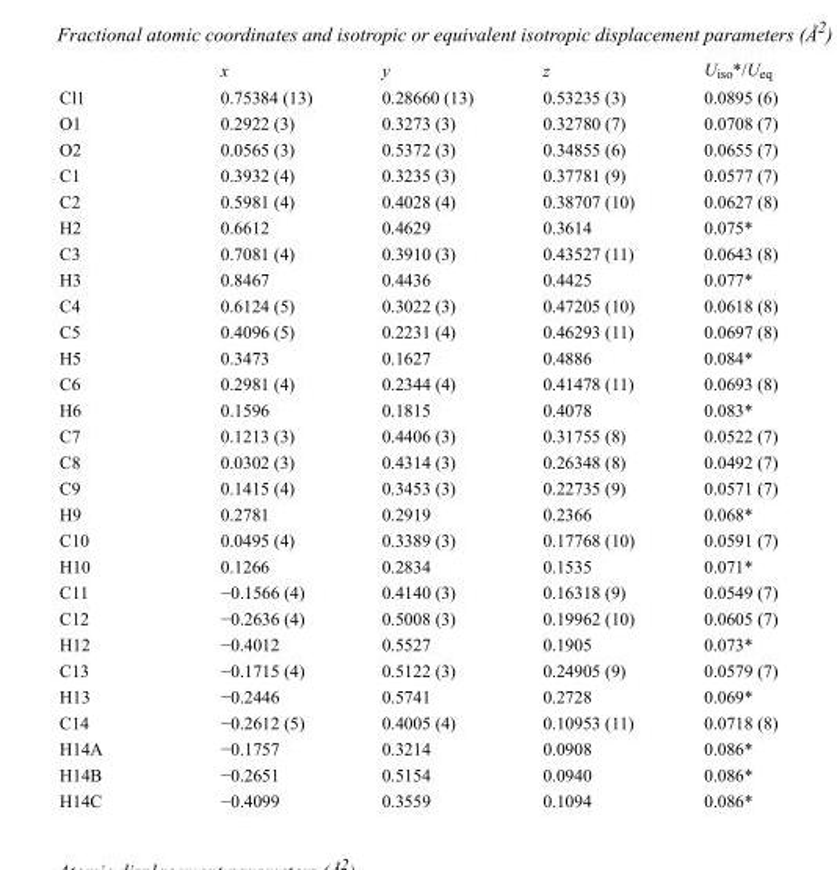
<table><thead><tr><td></td><td>x</td><td>y</td><td>z</td><td>U<sub>iso</sub>*/U<sub>eq</sub></td></tr></thead><tbody><tr><td>Cl1</td><td>0.75384 (13)</td><td>0.28660 (13)</td><td>0.53235 (3)</td><td>0.0895 (6)</td></tr><tr><td>O1</td><td>0.2922 (3)</td><td>0.3273 (3)</td><td>0.32780 (7)</td><td>0.0708 (7)</td></tr><tr><td>O2</td><td>0.0565 (3)</td><td>0.5372 (3)</td><td>0.34855 (6)</td><td>0.0655 (7)</td></tr><tr><td>C1</td><td>0.3932 (4)</td><td>0.3235 (3)</td><td>0.37781 (9)</td><td>0.0577 (7)</td></tr><tr><td>C2</td><td>0.5981 (4)</td><td>0.4028 (4)</td><td>0.38707 (10)</td><td>0.0627 (8)</td></tr><tr><td>H2</td><td>0.6612</td><td>0.4629</td><td>0.3614</td><td>0.075*</td></tr><tr><td>C3</td><td>0.7081 (4)</td><td>0.3910 (3)</td><td>0.43527 (11)</td><td>0.0643 (8)</td></tr><tr><td>H3</td><td>0.8467</td><td>0.4436</td><td>0.4425</td><td>0.077*</td></tr><tr><td>C4</td><td>0.6124 (5)</td><td>0.3022 (3)</td><td>0.47205 (10)</td><td>0.0618 (8)</td></tr><tr><td>C5</td><td>0.4096 (5)</td><td>0.2231 (4)</td><td>0.46293 (11)</td><td>0.0697 (8)</td></tr><tr><td>H5</td><td>0.3473</td><td>0.1627</td><td>0.4886</td><td>0.084*</td></tr><tr><td>C6</td><td>0.2981 (4)</td><td>0.2344 (4)</td><td>0.41478 (11)</td><td>0.0693 (8)</td></tr><tr><td>H6</td><td>0.1596</td><td>0.1815</td><td>0.4078</td><td>0.083*</td></tr><tr><td>C7</td><td>0.1213 (3)</td><td>0.4406 (3)</td><td>0.31755 (8)</td><td>0.0522 (7)</td></tr><tr><td>C8</td><td>0.0302 (3)</td><td>0.4314 (3)</td><td>0.26348 (8)</td><td>0.0492 (7)</td></tr><tr><td>C9</td><td>0.1415 (4)</td><td>0.3453 (3)</td><td>0.22735 (9)</td><td>0.0571 (7)</td></tr><tr><td>H9</td><td>0.2781</td><td>0.2919</td><td>0.2366</td><td>0.068*</td></tr><tr><td>C10</td><td>0.0495 (4)</td><td>0.3389 (3)</td><td>0.17768 (10)</td><td>0.0591 (7)</td></tr><tr><td>H10</td><td>0.1266</td><td>0.2834</td><td>0.1535</td><td>0.071*</td></tr><tr><td>C11</td><td>−0.1566 (4)</td><td>0.4140 (3)</td><td>0.16318 (9)</td><td>0.0549 (7)</td></tr><tr><td>C12</td><td>−0.2636 (4)</td><td>0.5008 (3)</td><td>0.19962 (10)</td><td>0.0605 (7)</td></tr><tr><td>H12</td><td>−0.4012</td><td>0.5527</td><td>0.1905</td><td>0.073*</td></tr><tr><td>C13</td><td>−0.1715 (4)</td><td>0.5122 (3)</td><td>0.24905 (9)</td><td>0.0579 (7)</td></tr><tr><td>H13</td><td>−0.2446</td><td>0.5741</td><td>0.2728</td><td>0.069*</td></tr><tr><td>C14</td><td>−0.2612 (5)</td><td>0.4005 (4)</td><td>0.10953 (11)</td><td>0.0718 (8)</td></tr><tr><td>H14A</td><td>−0.1757</td><td>0.3214</td><td>0.0908</td><td>0.086*</td></tr><tr><td>H14B</td><td>−0.2651</td><td>0.5154</td><td>0.0940</td><td>0.086*</td></tr><tr><td>H14C</td><td>−0.4099</td><td>0.3559</td><td>0.1094</td><td>0.086*</td></tr></tbody></table>